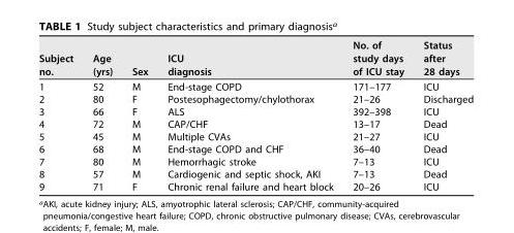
<table><thead><tr><td>Subject no.</td><td>Age (yrs)</td><td>Sex</td><td>ICU diagnosis</td><td>No. of study days of ICU stay</td><td>Status after 28 days</td></tr></thead><tbody><tr><td>1</td><td>52</td><td>M</td><td>End-stage COPD</td><td>171–177</td><td>ICU</td></tr><tr><td>2</td><td>80</td><td>F</td><td>Postesophagectomy/chylothorax</td><td>21–26</td><td>Discharged</td></tr><tr><td>3</td><td>66</td><td>F</td><td>ALS</td><td>392–398</td><td>ICU</td></tr><tr><td>4</td><td>72</td><td>M</td><td>CAP/CHF</td><td>13–17</td><td>Dead</td></tr><tr><td>5</td><td>45</td><td>M</td><td>Multiple CVAs</td><td>21–27</td><td>ICU</td></tr><tr><td>6</td><td>68</td><td>M</td><td>End-stage COPD and CHF</td><td>36–40</td><td>Dead</td></tr><tr><td>7</td><td>80</td><td>M</td><td>Hemorrhagic stroke</td><td>7–13</td><td>ICU</td></tr><tr><td>8</td><td>57</td><td>M</td><td>Cardiogenic and septic shock, AKI</td><td>7–13</td><td>Dead</td></tr><tr><td>9</td><td>71</td><td>F</td><td>Chronic renal failure and heart block</td><td>20–26</td><td>ICU</td></tr></tbody></table>